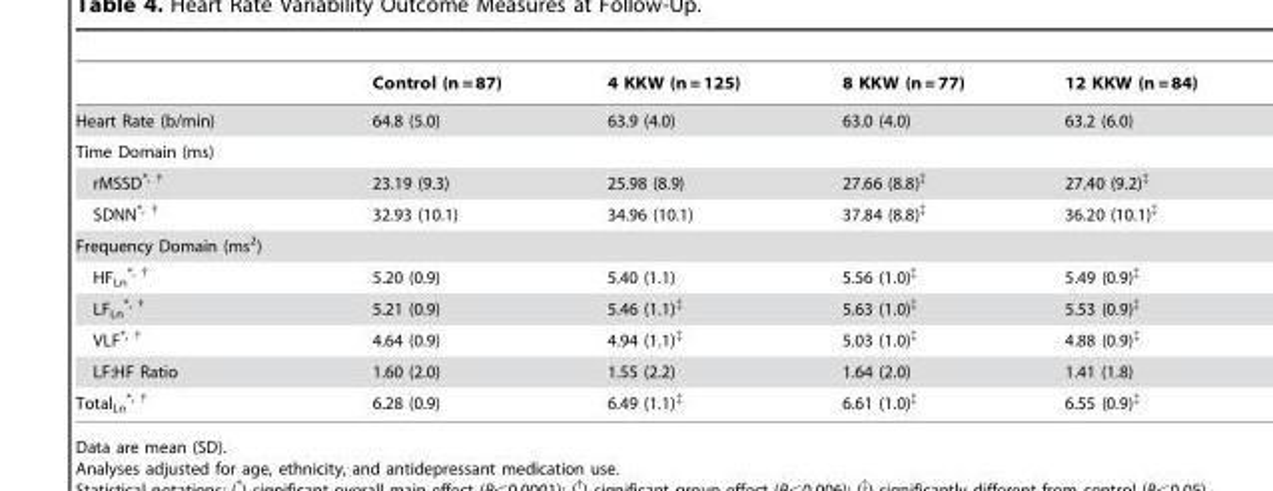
<table><thead><tr><td></td><td>Control (n = 87)</td><td>4 KKW (n = 125)</td><td>8 KKW (n = 77)</td><td>12 KKW (n = 84)</td></tr></thead><tbody><tr><td>Heart Rate (b/min)</td><td>64.8 (5.0)</td><td>63.9 (4.0)</td><td>63.0 (4.0)</td><td>63.2 (6.0)</td></tr><tr><td colspan="5">Time Domain (ms)</td></tr><tr><td>rMSSD<sup>*, †</sup></td><td>23.19 (9.3)</td><td>25.98 (8.9)</td><td>27.66 (8.8)<sup>‡</sup></td><td>27.40 (9.2)<sup>‡</sup></td></tr><tr><td>SDNN<sup>*, †</sup></td><td>32.93 (10.1)</td><td>34.96 (10.1)</td><td>37.84 (8.8)<sup>‡</sup></td><td>36.20 (10.1)<sup>‡</sup></td></tr><tr><td colspan="5">Frequency Domain (ms<sup>2</sup>)</td></tr><tr><td>HF<sub>Ln</sub> <sup>*, †</sup></td><td>5.20 (0.9)</td><td>5.40 (1.1)</td><td>5.56 (1.0)<sup>‡</sup></td><td>5.49 (0.9)<sup>‡</sup></td></tr><tr><td>LF<sub>Ln</sub> <sup>*, †</sup></td><td>5.21 (0.9)</td><td>5.46 (1.1)<sup>‡</sup></td><td>5.63 (1.0)<sup>‡</sup></td><td>5.53 (0.9)<sup>‡</sup></td></tr><tr><td>VLF<sup>*, †</sup></td><td>4.64 (0.9)</td><td>4.94 (1.1)<sup>‡</sup></td><td>5.03 (1.0)<sup>‡</sup></td><td>4.88 (0.9)<sup>‡</sup></td></tr><tr><td>LF:HF Ratio</td><td>1.60 (2.0)</td><td>1.55 (2.2)</td><td>1.64 (2.0)</td><td>1.41 (1.8)</td></tr><tr><td>Total<sub>Ln</sub> <sup>*, †</sup></td><td>6.28 (0.9)</td><td>6.49 (1.1)<sup>‡</sup></td><td>6.61 (1.0)<sup>‡</sup></td><td>6.55 (0.9)<sup>‡</sup></td></tr></tbody></table>